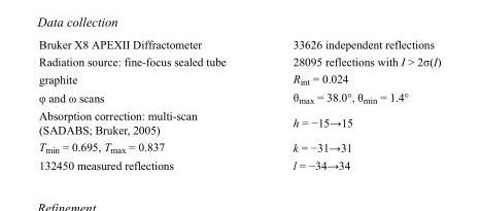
<table><tbody><tr><td>Bruker X8 APEXII Diffractometer</td><td>33626 independent reflections</td></tr><tr><td>Radiation source: fine-focus sealed tube</td><td>28095 reflections with I &gt; 2σ(I)</td></tr><tr><td>graphite</td><td>R<sub>int</sub> = 0.024</td></tr><tr><td>φ and ω scans</td><td>θ<sub>max</sub> = 38.0°, θ<sub>min</sub> = 1.4°</td></tr><tr><td>Absorption correction: multi-scan (SADABS; Bruker, 2005)</td><td>h = −15→15</td></tr><tr><td>T<sub>min</sub> = 0.695, T<sub>max</sub> = 0.837</td><td>k = −31→31</td></tr><tr><td>132450 measured reflections</td><td>l = −34→34</td></tr></tbody></table>